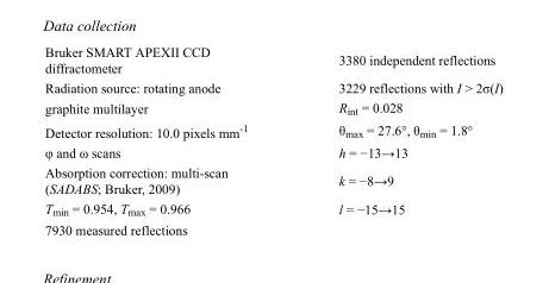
<table><tbody><tr><td>Bruker SMART APEXII CCD diffractometer</td><td>3380 independent reflections</td></tr><tr><td>Radiation source: rotating anode</td><td>3229 reflections with I &gt; 2σ(I)</td></tr><tr><td>graphite multilayer</td><td>R<sub>int</sub> = 0.028</td></tr><tr><td>Detector resolution: 10.0 pixels mm<sup>-1</sup></td><td>θ<sub>max</sub> = 27.6°, θ<sub>min</sub> = 1.8°</td></tr><tr><td>φ and ω scans</td><td>h = −13→13</td></tr><tr><td>Absorption correction: multi-scan (SADABS; Bruker, 2009)</td><td>k = −8→9</td></tr><tr><td>T<sub>min</sub> = 0.954, T<sub>max</sub> = 0.966</td><td>l = −15→15</td></tr><tr><td>7930 measured reflections</td><td></td></tr></tbody></table>